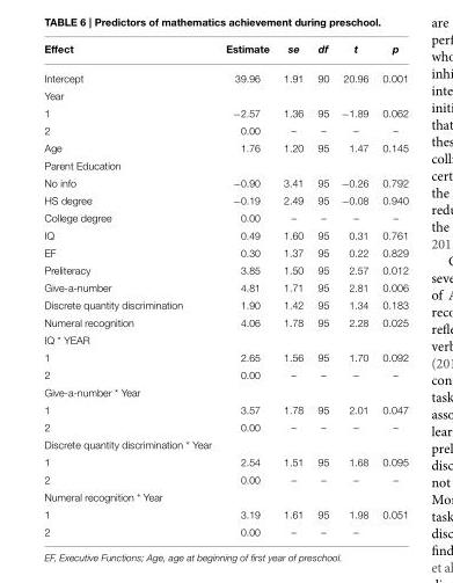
<table><thead><tr><td>Effect</td><td>Estimate</td><td>se</td><td>df</td><td>t</td><td>p</td></tr></thead><tbody><tr><td>Intercept</td><td>39.96</td><td>1.91</td><td>90</td><td>20.96</td><td>0.001</td></tr><tr><td colspan="6">Year</td></tr><tr><td>1</td><td>−2.57</td><td>1.36</td><td>95</td><td>−1.89</td><td>0.062</td></tr><tr><td>2</td><td>0.00</td><td>–</td><td>–</td><td>–</td><td>–</td></tr><tr><td>Age</td><td>1.76</td><td>1.20</td><td>95</td><td>1.47</td><td>0.145</td></tr><tr><td colspan="6">Parent Education</td></tr><tr><td>No info</td><td>−0.90</td><td>3.41</td><td>95</td><td>−0.26</td><td>0.792</td></tr><tr><td>HS degree</td><td>−0.19</td><td>2.49</td><td>95</td><td>−0.08</td><td>0.940</td></tr><tr><td>College degree</td><td>0.00</td><td>–</td><td>–</td><td>–</td><td>–</td></tr><tr><td>IQ</td><td>0.49</td><td>1.60</td><td>95</td><td>0.31</td><td>0.761</td></tr><tr><td>EF</td><td>0.30</td><td>1.37</td><td>95</td><td>0.22</td><td>0.829</td></tr><tr><td>Preliteracy</td><td>3.85</td><td>1.50</td><td>95</td><td>2.57</td><td>0.012</td></tr><tr><td>Give-a-number</td><td>4.81</td><td>1.71</td><td>95</td><td>2.81</td><td>0.006</td></tr><tr><td>Discrete quantity discrimination</td><td>1.90</td><td>1.42</td><td>95</td><td>1.34</td><td>0.183</td></tr><tr><td>Numeral recognition</td><td>4.06</td><td>1.78</td><td>95</td><td>2.28</td><td>0.025</td></tr><tr><td colspan="6">IQ * YEAR</td></tr><tr><td>1</td><td>2.65</td><td>1.56</td><td>95</td><td>1.70</td><td>0.092</td></tr><tr><td>2</td><td>0.00</td><td>–</td><td>–</td><td>–</td><td>–</td></tr><tr><td colspan="6">Give-a-number * Year</td></tr><tr><td>1</td><td>3.57</td><td>1.78</td><td>95</td><td>2.01</td><td>0.047</td></tr><tr><td>2</td><td>0.00</td><td>–</td><td>–</td><td>–</td><td>–</td></tr><tr><td colspan="6">Discrete quantity discrimination * Year</td></tr><tr><td>1</td><td>2.54</td><td>1.51</td><td>95</td><td>1.68</td><td>0.095</td></tr><tr><td>2</td><td>0.00</td><td>–</td><td>–</td><td>–</td><td>–</td></tr><tr><td colspan="6">Numeral recognition * Year</td></tr><tr><td>1</td><td>3.19</td><td>1.61</td><td>95</td><td>1.98</td><td>0.051</td></tr><tr><td>2</td><td>0.00</td><td>–</td><td>–</td><td>–</td><td></td></tr></tbody></table>